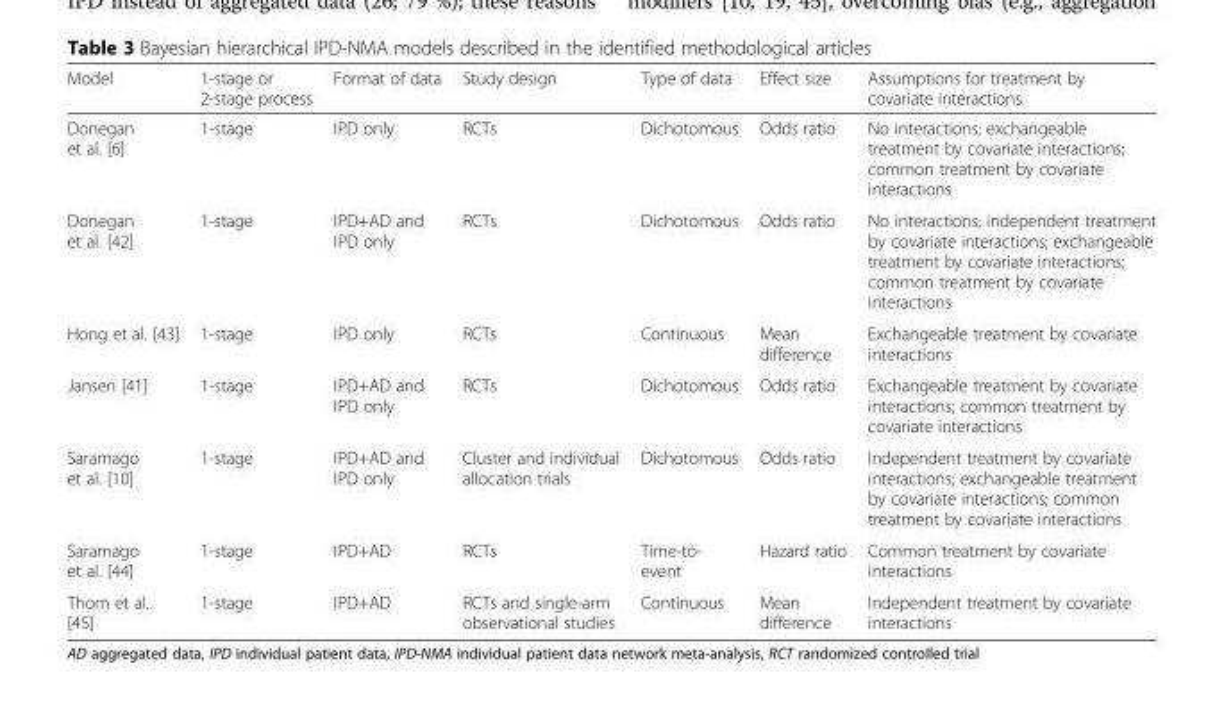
<table><thead><tr><td>Model</td><td>1-stage or 2-stage process</td><td>Format of data</td><td>Study design</td><td>Type of data</td><td>Effect size</td><td>Assumptions for treatment by covariate interactions</td></tr></thead><tbody><tr><td>Donegan et al. [6]</td><td>1-stage</td><td>IPD only</td><td>RCTs</td><td>Dichotomous</td><td>Odds ratio</td><td>No interactions; exchangeable treatment by covariate interactions; common treatment by covariate interactions</td></tr><tr><td>Donegan et al. [42]</td><td>1-stage</td><td>IPD+AD and IPD only</td><td>RCTs</td><td>Dichotomous</td><td>Odds ratio</td><td>No interactions; independent treatment by covariate interactions; exchangeable treatment by covariate interactions; common treatment by covariate interactions</td></tr><tr><td>Hong et al. [43]</td><td>1-stage</td><td>IPD only</td><td>RCTs</td><td>Continuous</td><td>Mean difference</td><td>Exchangeable treatment by covariate interactions</td></tr><tr><td>Jansen [41]</td><td>1-stage</td><td>IPD+AD and IPD only</td><td>RCTs</td><td>Dichotomous</td><td>Odds ratio</td><td>Exchangeable treatment by covariate interactions; common treatment by covariate interactions</td></tr><tr><td>Saramago et al. [10]</td><td>1-stage</td><td>IPD+AD and IPD only</td><td>Cluster and individual allocation trials</td><td>Dichotomous</td><td>Odds ratio</td><td>Independent treatment by covariate interactions; exchangeable treatment by covariate interactions; common treatment by covariate interactions</td></tr><tr><td>Saramago et al. [44]</td><td>1-stage</td><td>IPD+AD</td><td>RCTs</td><td>Time-to- event</td><td>Hazard ratio</td><td>Common treatment by covariate interactions</td></tr><tr><td>Thom et al. [45]</td><td>1-stage</td><td>IPD+AD</td><td>RCTs and single-arm observational studies</td><td>Continuous</td><td>Mean difference</td><td>Independent treatment by covariate interactions</td></tr></tbody></table>